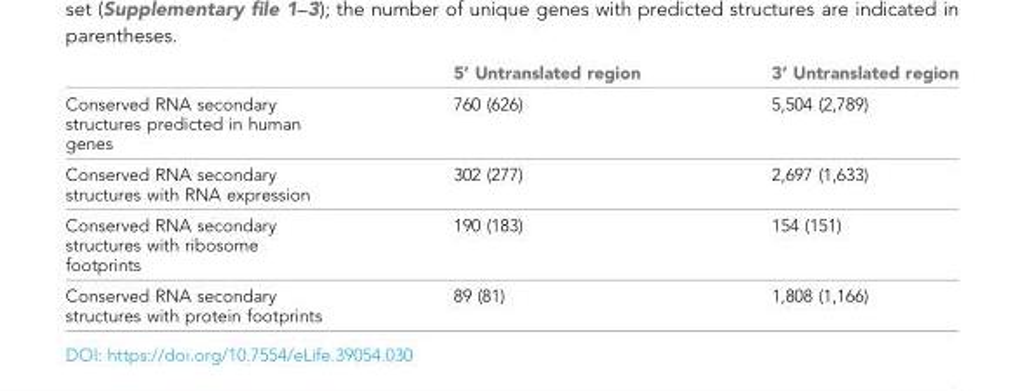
<table><thead><tr><td></td><td>5’ Untranslated region</td><td>3’ Untranslated region</td></tr></thead><tbody><tr><td>Conserved RNA secondary structures predicted in human genes</td><td>760 (626)</td><td>5,504 (2,789)</td></tr><tr><td>Conserved RNA secondary structures with RNA expression</td><td>302 (277)</td><td>2,697 (1,633)</td></tr><tr><td>Conserved RNA secondary structures with ribosome footprints</td><td>190 (183)</td><td>154 (151)</td></tr><tr><td>Conserved RNA secondary structures with protein footprints</td><td>89 (81)</td><td>1,808 (1,166)</td></tr></tbody></table>